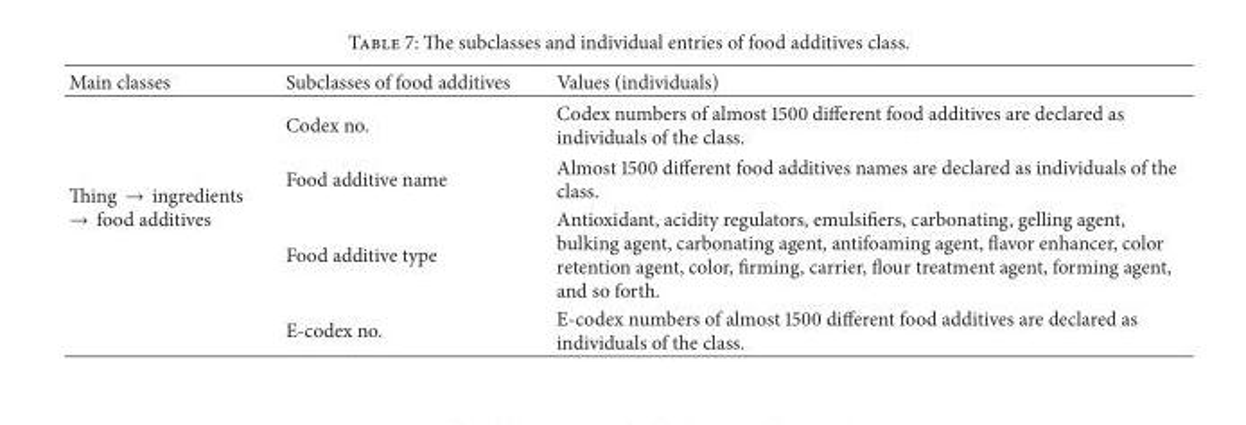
<table><thead><tr><td>Main classes</td><td>Subclasses of food additives</td><td>Values (individuals)</td></tr></thead><tbody><tr><td rowspan="4">Thing → ingredients → food additives</td><td>Codex no.</td><td>Codex numbers of almost 1500 different food additives are declared as individuals of the class.</td></tr><tr><td>Food additive name</td><td>Almost 1500 different food additives names are declared as individuals of the class.</td></tr><tr><td>Food additive type</td><td>Antioxidant, acidity regulators, emulsifiers, carbonating, gelling agent, bulking agent, carbonating agent, antifoaming agent, flavor enhancer, color retention agent, color, firming, carrier, flour treatment agent, forming agent, and so forth.</td></tr><tr><td>E-codex no.</td><td>E-codex numbers of almost 1500 different food additives are declared as individuals of the class.</td></tr></tbody></table>